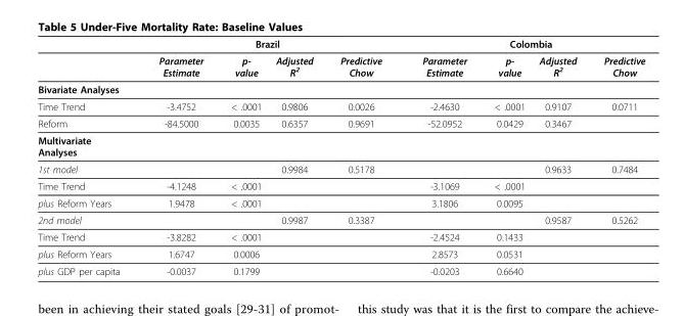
<table><thead><tr><td rowspan="2"></td><td colspan="4">Brazil</td><td colspan="4">Colombia</td></tr><tr><td>Parameter Estimate</td><td>p- value</td><td>Adjusted R2</td><td>Predictive Chow</td><td>Parameter Estimate</td><td>p- value</td><td>Adjusted R2</td><td>Predictive Chow</td></tr></thead><tbody><tr><td colspan="9">Bivariate Analyses</td></tr><tr><td>Time Trend</td><td>-3.4752</td><td>&lt; .0001</td><td>0.9806</td><td>0.0026</td><td>-2.4630</td><td>&lt; .0001</td><td>0.9107</td><td>0.0711</td></tr><tr><td>Reform</td><td>-84.5000</td><td>0.0035</td><td>0.6357</td><td>0.9691</td><td>-52.0952</td><td>0.0429</td><td>0.3467</td><td></td></tr><tr><td colspan="9">Multivariate Analyses</td></tr><tr><td>1st model</td><td></td><td></td><td>0.9984</td><td>0.5178</td><td></td><td></td><td>0.9633</td><td>0.7484</td></tr><tr><td>Time Trend</td><td>-4.1248</td><td>&lt; .0001</td><td></td><td></td><td>-3.1069</td><td>&lt; .0001</td><td></td><td></td></tr><tr><td>plus Reform Years</td><td>1.9478</td><td>&lt; .0001</td><td></td><td></td><td>3.1806</td><td>0.0095</td><td></td><td></td></tr><tr><td>2nd model</td><td></td><td></td><td>0.9987</td><td>0.3387</td><td></td><td></td><td>0.9587</td><td>0.5262</td></tr><tr><td>Time Trend</td><td>-3.8282</td><td>&lt; .0001</td><td></td><td></td><td>-2.4524</td><td>0.1433</td><td></td><td></td></tr><tr><td>plus Reform Years</td><td>1.6747</td><td>0.0006</td><td></td><td></td><td>2.8573</td><td>0.0531</td><td></td><td></td></tr><tr><td>plus GDP per capita</td><td>-0.0037</td><td>0.1799</td><td></td><td></td><td>-0.0203</td><td>0.6640</td><td></td><td></td></tr></tbody></table>